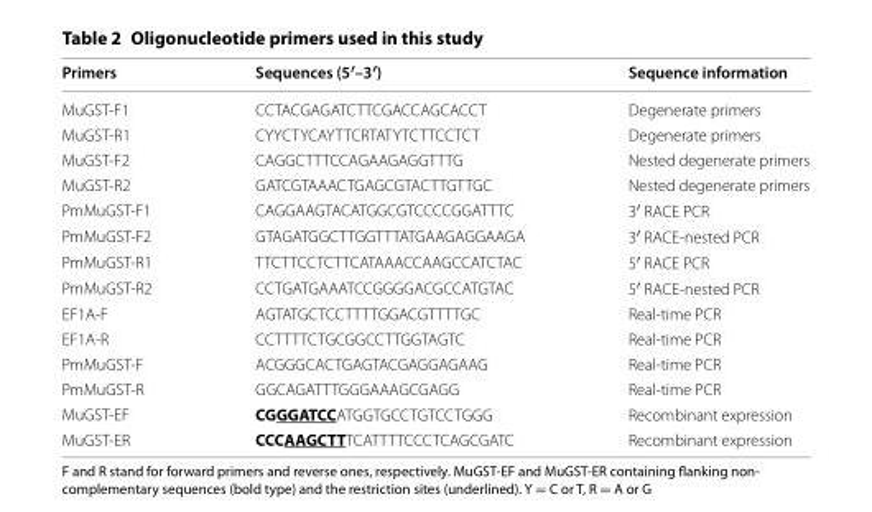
<table><thead><tr><td>Primers</td><td>Sequences (5′–3′)</td><td>Sequence information</td></tr></thead><tbody><tr><td>MuGST-F1</td><td>CCTACGAGATCTTCGACCAGCACCT</td><td>Degenerate primers</td></tr><tr><td>MuGST-R1</td><td>CYYCTYCAYTTCRTATYTCTTCCTCT</td><td>Degenerate primers</td></tr><tr><td>MuGST-F2</td><td>CAGGCTTTCCAGAAGAGGTTTG</td><td>Nested degenerate primers</td></tr><tr><td>MuGST-R2</td><td>GATCGTAAACTGAGCGTACTTGTTGC</td><td>Nested degenerate primers</td></tr><tr><td>PmMuGST-F1</td><td>CAGGAAGTACATGGCGTCCCCGGATTTC</td><td>3′ RACE PCR</td></tr><tr><td>PmMuGST-F2</td><td>GTAGATGGCTTGGTTTATGAAGAGGAAGA</td><td>3′ RACE-nested PCR</td></tr><tr><td>PmMuGST-R1</td><td>TTCTTCCTCTTCATAAACCAAGCCATCTAC</td><td>5′ RACE PCR</td></tr><tr><td>PmMuGST-R2</td><td>CCTGATGAAATCCGGGGACGCCATGTAC</td><td>5′ RACE-nested PCR</td></tr><tr><td>EF1A-F</td><td>AGTATGCTCCTTTTGGACGTTTTGC</td><td>Real-time PCR</td></tr><tr><td>EF1A-R</td><td>CCTTTTCTGCGGCCTTGGTAGTC</td><td>Real-time PCR</td></tr><tr><td>PmMuGST-F</td><td>ACGGGCACTGAGTACGAGGAGAAG</td><td>Real-time PCR</td></tr><tr><td>PmMuGST-R</td><td>GGCAGATTTGGGAAAGCGAGG</td><td>Real-time PCR</td></tr><tr><td>MuGST-EF</td><td>CGGGATCCATGGTGCCTGTCCTGGG</td><td>Recombinant expression</td></tr><tr><td>MuGST-ER</td><td>CCCAAGCTTTCATTTTCCCTCAGCGATC</td><td>Recombinant expression</td></tr></tbody></table>